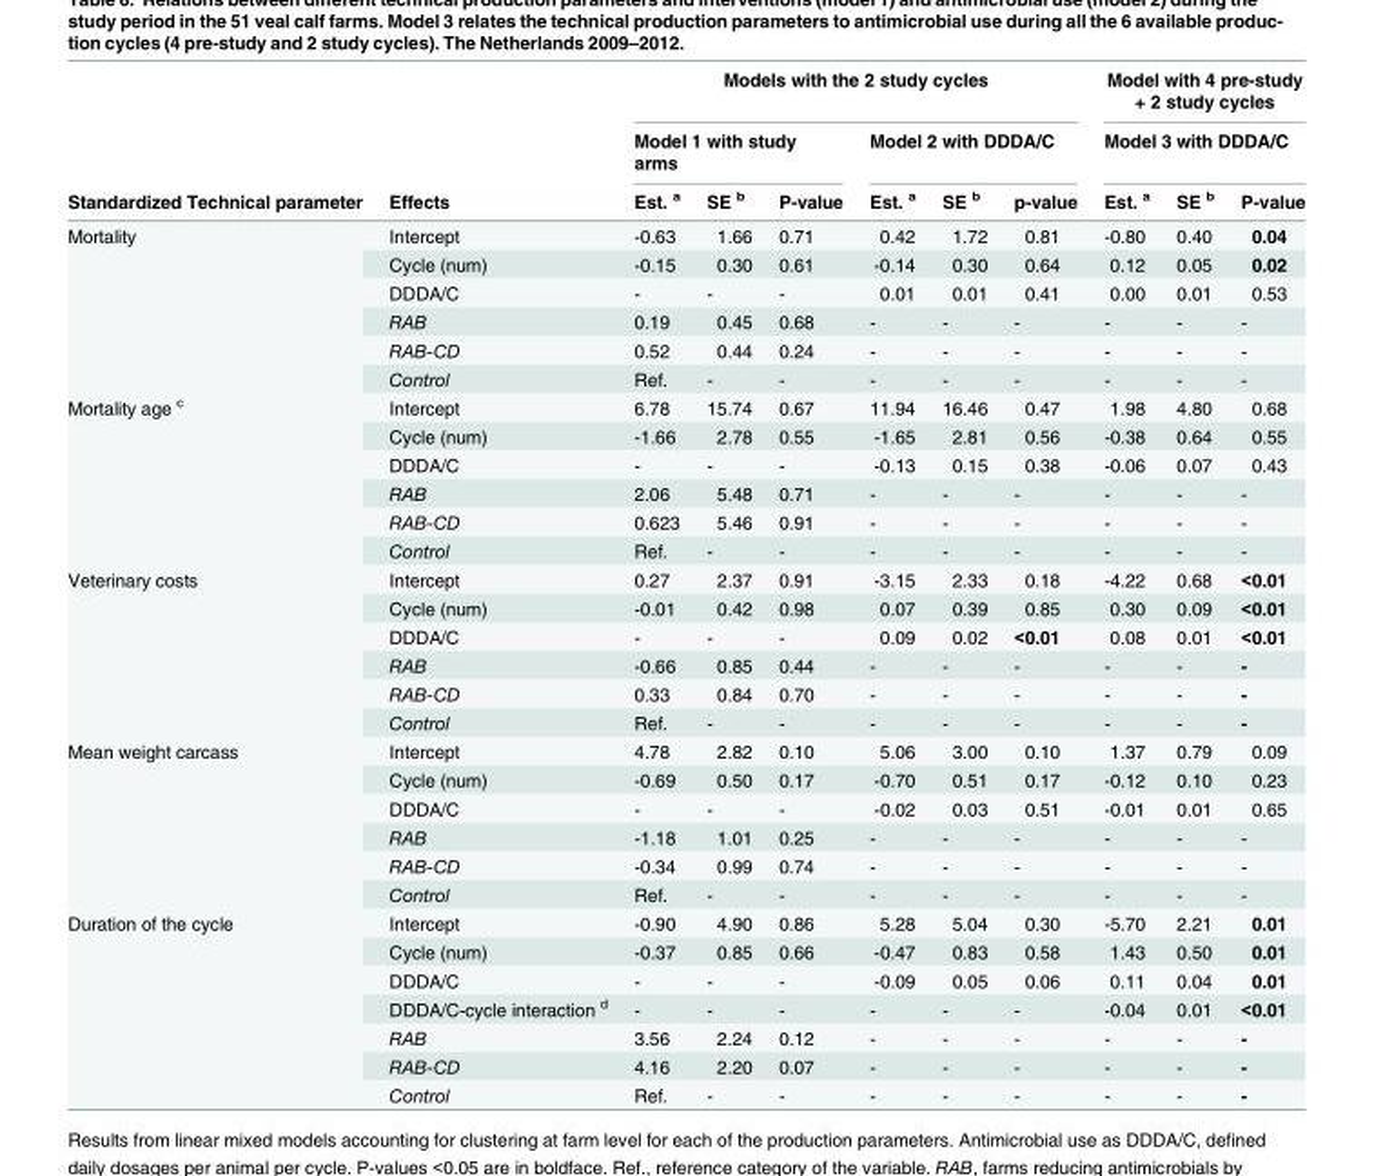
<table><thead><tr><td rowspan="3">Standardized Technical parameter</td><td rowspan="3">Effects</td><td colspan="6">Models with the 2 study cycles</td><td rowspan="2" colspan="3">Model with 4 pre-study + 2 study cycles Model 3 with DDDA/C</td></tr><tr><td colspan="3">Model 1 with study arms</td><td colspan="3">Model 2 with DDDA/C</td></tr><tr><td>Est. <sup>a</sup></td><td>SE <sup>b</sup></td><td>P-value</td><td>Est. <sup>a</sup></td><td>SE <sup>b</sup></td><td>p-value</td><td>Est. <sup>a</sup></td><td>SE <sup>b</sup></td><td>P-value</td></tr></thead><tbody><tr><td rowspan="6">Mortality</td><td>Intercept</td><td>-0.63</td><td>1.66</td><td>0.71</td><td>0.42</td><td>1.72</td><td>0.81</td><td>-0.80</td><td>0.40</td><td>0.04</td></tr><tr><td>Cycle (num)</td><td>-0.15</td><td>0.30</td><td>0.61</td><td>-0.14</td><td>0.30</td><td>0.64</td><td>0.12</td><td>0.05</td><td>0.02</td></tr><tr><td>DDDA/C</td><td>-</td><td>-</td><td>-</td><td>0.01</td><td>0.01</td><td>0.41</td><td>0.00</td><td>0.01</td><td>0.53</td></tr><tr><td>RAB</td><td>0.19</td><td>0.45</td><td>0.68</td><td>-</td><td>-</td><td>-</td><td>-</td><td>-</td><td>-</td></tr><tr><td>RAB-CD</td><td>0.52</td><td>0.44</td><td>0.24</td><td>-</td><td>-</td><td>-</td><td>-</td><td>-</td><td>-</td></tr><tr><td>Control</td><td>Ref.</td><td>-</td><td>-</td><td>-</td><td>-</td><td>-</td><td>-</td><td>-</td><td>-</td></tr><tr><td rowspan="6">Mortality age <sup>c</sup></td><td>Intercept</td><td>6.78</td><td>15.74</td><td>0.67</td><td>11.94</td><td>16.46</td><td>0.47</td><td>1.98</td><td>4.80</td><td>0.68</td></tr><tr><td>Cycle (num)</td><td>-1.66</td><td>2.78</td><td>0.55</td><td>-1.65</td><td>2.81</td><td>0.56</td><td>-0.38</td><td>0.64</td><td>0.55</td></tr><tr><td>DDDA/C</td><td>-</td><td>-</td><td>-</td><td>-0.13</td><td>0.15</td><td>0.38</td><td>-0.06</td><td>0.07</td><td>0.43</td></tr><tr><td>RAB</td><td>2.06</td><td>5.48</td><td>0.71</td><td>-</td><td>-</td><td>-</td><td>-</td><td>-</td><td>-</td></tr><tr><td>RAB-CD</td><td>0.623</td><td>5.46</td><td>0.91</td><td>-</td><td>-</td><td>-</td><td>-</td><td>-</td><td>-</td></tr><tr><td>Control</td><td>Ref.</td><td>-</td><td>-</td><td>-</td><td>-</td><td>-</td><td>-</td><td>-</td><td>-</td></tr><tr><td rowspan="6">Veterinary costs</td><td>Intercept</td><td>0.27</td><td>2.37</td><td>0.91</td><td>-3.15</td><td>2.33</td><td>0.18</td><td>-4.22</td><td>0.68</td><td>&lt;0.01</td></tr><tr><td>Cycle (num)</td><td>-0.01</td><td>0.42</td><td>0.98</td><td>0.07</td><td>0.39</td><td>0.85</td><td>0.30</td><td>0.09</td><td>&lt;0.01</td></tr><tr><td>DDDA/C</td><td>-</td><td>-</td><td>-</td><td>0.09</td><td>0.02</td><td>&lt;0.01</td><td>0.08</td><td>0.01</td><td>&lt;0.01</td></tr><tr><td>RAB</td><td>-0.66</td><td>0.85</td><td>0.44</td><td>-</td><td>-</td><td>-</td><td>-</td><td>-</td><td>-</td></tr><tr><td>RAB-CD</td><td>0.33</td><td>0.84</td><td>0.70</td><td>-</td><td>-</td><td>-</td><td>-</td><td>-</td><td>-</td></tr><tr><td>Control</td><td>Ref.</td><td>-</td><td>-</td><td>-</td><td>-</td><td>-</td><td>-</td><td>-</td><td>-</td></tr><tr><td rowspan="6">Mean weight carcass</td><td>Intercept</td><td>4.78</td><td>2.82</td><td>0.10</td><td>5.06</td><td>3.00</td><td>0.10</td><td>1.37</td><td>0.79</td><td>0.09</td></tr><tr><td>Cycle (num)</td><td>-0.69</td><td>0.50</td><td>0.17</td><td>-0.70</td><td>0.51</td><td>0.17</td><td>-0.12</td><td>0.10</td><td>0.23</td></tr><tr><td>DDDA/C</td><td>-</td><td>-</td><td>-</td><td>-0.02</td><td>0.03</td><td>0.51</td><td>-0.01</td><td>0.01</td><td>0.65</td></tr><tr><td>RAB</td><td>-1.18</td><td>1.01</td><td>0.25</td><td>-</td><td>-</td><td>-</td><td>-</td><td>-</td><td>-</td></tr><tr><td>RAB-CD</td><td>-0.34</td><td>0.99</td><td>0.74</td><td>-</td><td>-</td><td>-</td><td>-</td><td>-</td><td>-</td></tr><tr><td>Control</td><td>Ref.</td><td>-</td><td>-</td><td>-</td><td>-</td><td>-</td><td>-</td><td>-</td><td>-</td></tr><tr><td rowspan="7">Duration of the cycle</td><td>Intercept</td><td>-0.90</td><td>4.90</td><td>0.86</td><td>5.28</td><td>5.04</td><td>0.30</td><td>-5.70</td><td>2.21</td><td>0.01</td></tr><tr><td>Cycle (num)</td><td>-0.37</td><td>0.85</td><td>0.66</td><td>-0.47</td><td>0.83</td><td>0.58</td><td>1.43</td><td>0.50</td><td>0.01</td></tr><tr><td>DDDA/C</td><td>-</td><td>-</td><td>-</td><td>-0.09</td><td>0.05</td><td>0.06</td><td>0.11</td><td>0.04</td><td>0.01</td></tr><tr><td>DDDA/C-cycle interaction <sup>d</sup></td><td>-</td><td>-</td><td>-</td><td>-</td><td>-</td><td>-</td><td>-0.04</td><td>0.01</td><td>&lt;0.01</td></tr><tr><td>RAB</td><td>3.56</td><td>2.24</td><td>0.12</td><td>-</td><td>-</td><td>-</td><td>-</td><td>-</td><td>-</td></tr><tr><td>RAB-CD</td><td>4.16</td><td>2.20</td><td>0.07</td><td>-</td><td>-</td><td>-</td><td>-</td><td>-</td><td>-</td></tr><tr><td>Control</td><td>Ref.</td><td>-</td><td>-</td><td>-</td><td>-</td><td>-</td><td>-</td><td>-</td><td>-</td></tr></tbody></table>